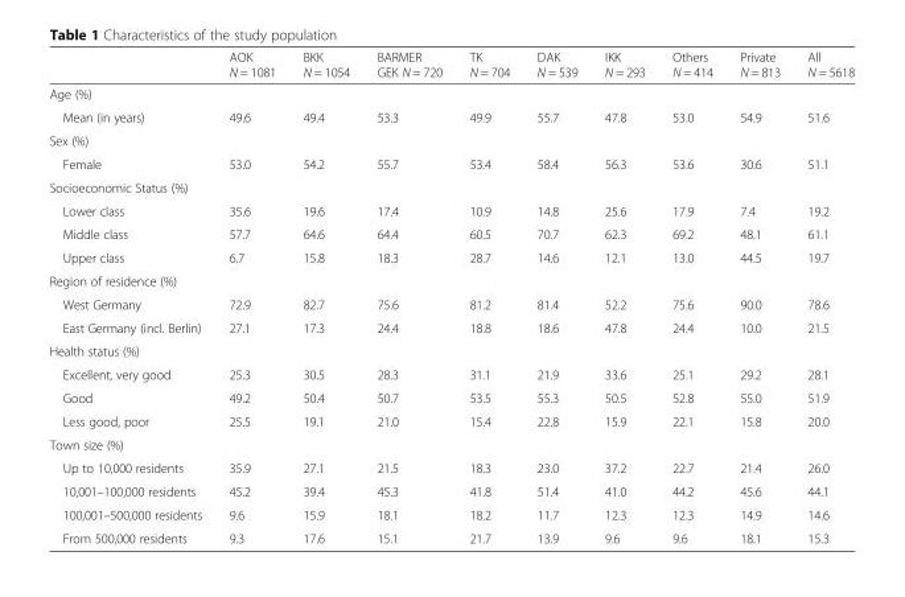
<table><thead><tr><td></td><td>AOK N = 1081</td><td>BKK N = 1054</td><td>BARMER GEK N = 720</td><td>TK N = 704</td><td>DAK N = 539</td><td>IKK N = 293</td><td>Others N = 414</td><td>Private N = 813</td><td>All N = 5618</td></tr></thead><tbody><tr><td colspan="10">Age (%)</td></tr><tr><td>Mean (in years)</td><td>49.6</td><td>49.4</td><td>53.3</td><td>49.9</td><td>55.7</td><td>47.8</td><td>53.0</td><td>54.9</td><td>51.6</td></tr><tr><td colspan="10">Sex (%)</td></tr><tr><td>Female</td><td>53.0</td><td>54.2</td><td>55.7</td><td>53.4</td><td>58.4</td><td>56.3</td><td>53.6</td><td>30.6</td><td>51.1</td></tr><tr><td colspan="10">Socioeconomic Status (%)</td></tr><tr><td>Lower class</td><td>35.6</td><td>19.6</td><td>17.4</td><td>10.9</td><td>14.8</td><td>25.6</td><td>17.9</td><td>7.4</td><td>19.2</td></tr><tr><td>Middle class</td><td>57.7</td><td>64.6</td><td>64.4</td><td>60.5</td><td>70.7</td><td>62.3</td><td>69.2</td><td>48.1</td><td>61.1</td></tr><tr><td>Upper class</td><td>6.7</td><td>15.8</td><td>18.3</td><td>28.7</td><td>14.6</td><td>12.1</td><td>13.0</td><td>44.5</td><td>19.7</td></tr><tr><td colspan="10">Region of residence (%)</td></tr><tr><td>West Germany</td><td>72.9</td><td>82.7</td><td>75.6</td><td>81.2</td><td>81.4</td><td>52.2</td><td>75.6</td><td>90.0</td><td>78.6</td></tr><tr><td>East Germany (incl. Berlin)</td><td>27.1</td><td>17.3</td><td>24.4</td><td>18.8</td><td>18.6</td><td>47.8</td><td>24.4</td><td>10.0</td><td>21.5</td></tr><tr><td colspan="10">Health status (%)</td></tr><tr><td>Excellent, very good</td><td>25.3</td><td>30.5</td><td>28.3</td><td>31.1</td><td>21.9</td><td>33.6</td><td>25.1</td><td>29.2</td><td>28.1</td></tr><tr><td>Good</td><td>49.2</td><td>50.4</td><td>50.7</td><td>53.5</td><td>55.3</td><td>50.5</td><td>52.8</td><td>55.0</td><td>51.9</td></tr><tr><td>Less good, poor</td><td>25.5</td><td>19.1</td><td>21.0</td><td>15.4</td><td>22.8</td><td>15.9</td><td>22.1</td><td>15.8</td><td>20.0</td></tr><tr><td colspan="10">Town size (%)</td></tr><tr><td>Up to 10,000 residents</td><td>35.9</td><td>27.1</td><td>21.5</td><td>18.3</td><td>23.0</td><td>37.2</td><td>22.7</td><td>21.4</td><td>26.0</td></tr><tr><td>10,001–100,000 residents</td><td>45.2</td><td>39.4</td><td>45.3</td><td>41.8</td><td>51.4</td><td>41.0</td><td>44.2</td><td>45.6</td><td>44.1</td></tr><tr><td>100,001–500,000 residents</td><td>9.6</td><td>15.9</td><td>18.1</td><td>18.2</td><td>11.7</td><td>12.3</td><td>12.3</td><td>14.9</td><td>14.6</td></tr><tr><td>From 500,000 residents</td><td>9.3</td><td>17.6</td><td>15.1</td><td>21.7</td><td>13.9</td><td>9.6</td><td>9.6</td><td>18.1</td><td>15.3</td></tr></tbody></table>